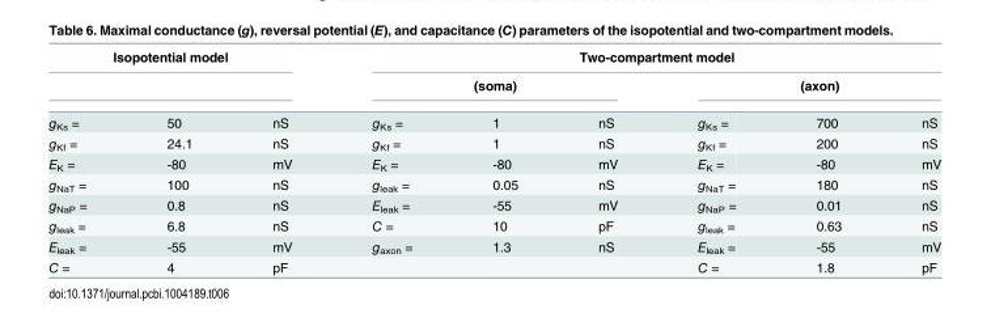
<table><thead><tr><td colspan="3">Isopotential model</td><td colspan="6">Two-compartment model</td></tr><tr><td rowspan="2">g<sub>Ks</sub> =</td><td rowspan="2">50</td><td rowspan="2">nS</td><td colspan="3">(soma)</td><td colspan="3">(axon)</td></tr><tr><td>g<sub>Ks</sub> =</td><td>1</td><td>nS</td><td>g<sub>Ks</sub> =</td><td>700</td><td>nS</td></tr></thead><tbody><tr><td>g<sub>Kf</sub> =</td><td>24.1</td><td>nS</td><td>g<sub>Kf</sub> =</td><td>1</td><td>nS</td><td>g<sub>Kf</sub> =</td><td>200</td><td>nS</td></tr><tr><td>E<sub>K</sub> =</td><td>-80</td><td>mV</td><td>E<sub>K</sub> =</td><td>-80</td><td>mV</td><td>E<sub>K</sub> =</td><td>-80</td><td>mV</td></tr><tr><td>g<sub>NaT</sub> =</td><td>100</td><td>nS</td><td>g<sub>leak</sub> =</td><td>0.05</td><td>nS</td><td>g<sub>NaT</sub> =</td><td>180</td><td>nS</td></tr><tr><td>g<sub>NaP</sub> =</td><td>0.8</td><td>nS</td><td>E<sub>leak</sub> =</td><td>-55</td><td>mV</td><td>g<sub>NaP</sub> =</td><td>0.01</td><td>nS</td></tr><tr><td>g<sub>leak</sub> =</td><td>6.8</td><td>nS</td><td>C =</td><td>10</td><td>pF</td><td>g<sub>leak</sub> =</td><td>0.63</td><td>nS</td></tr><tr><td>E<sub>leak</sub> =</td><td>-55</td><td>mV</td><td>g<sub>axon</sub> =</td><td>1.3</td><td>nS</td><td>E<sub>leak</sub> =</td><td>-55</td><td>mV</td></tr><tr><td>C =</td><td>4</td><td>pF</td><td></td><td></td><td></td><td>C =</td><td>1.8</td><td>pF</td></tr></tbody></table>